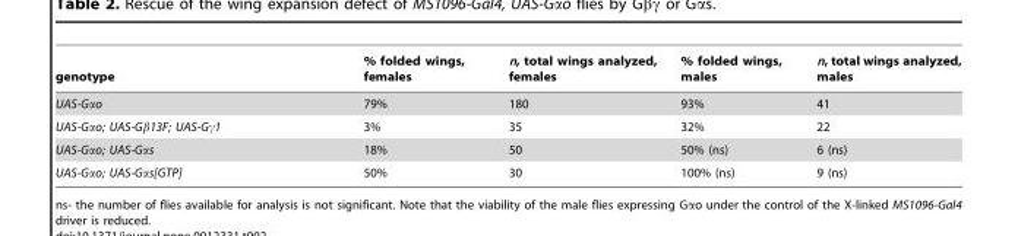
<table><thead><tr><td>genotype</td><td>% folded wings, females</td><td>n, total wings analyzed, females</td><td>% folded wings, males</td><td>n, total wings analyzed, males</td></tr></thead><tbody><tr><td>UAS-Gαo</td><td>79%</td><td>180</td><td>93%</td><td>41</td></tr><tr><td>UAS-Gαo; UAS-Gβ13F; UAS-Gγ1</td><td>3%</td><td>35</td><td>32%</td><td>22</td></tr><tr><td>UAS-Gαo; UAS-Gαs</td><td>18%</td><td>50</td><td>50% (ns)</td><td>6 (ns)</td></tr><tr><td>UAS-Gαo; UAS-Gαs[GTP]</td><td>50%</td><td>30</td><td>100% (ns)</td><td>9 (ns)</td></tr></tbody></table>